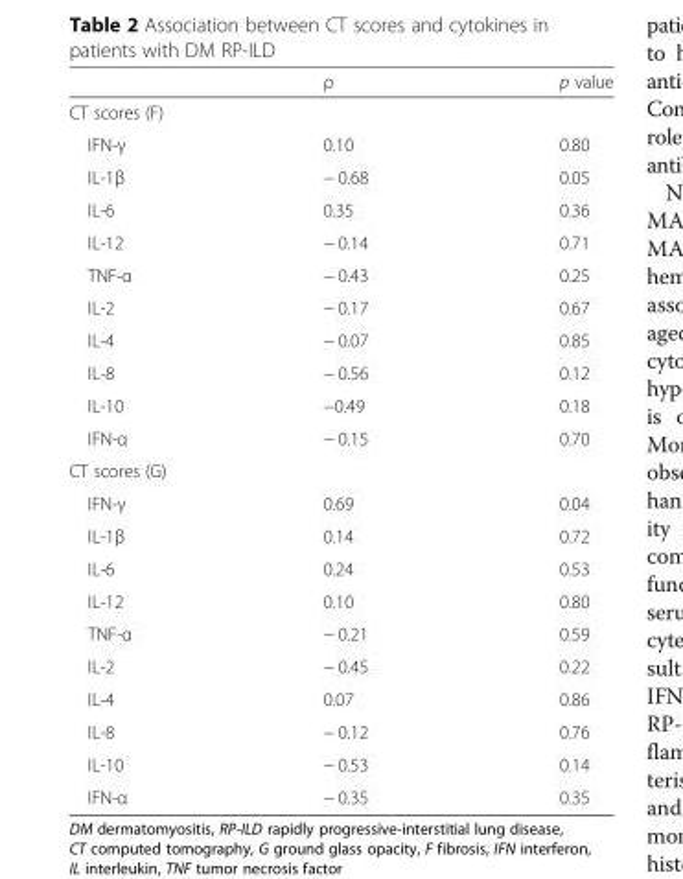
<table><thead><tr><td></td><td>ρ</td><td>p value</td></tr></thead><tbody><tr><td colspan="3">CT scores (F)</td></tr><tr><td>IFN-γ</td><td>0.10</td><td>0.80</td></tr><tr><td>IL-1β</td><td>− 0.68</td><td>0.05</td></tr><tr><td>IL-6</td><td>0.35</td><td>0.36</td></tr><tr><td>IL-12</td><td>− 0.14</td><td>0.71</td></tr><tr><td>TNF-α</td><td>− 0.43</td><td>0.25</td></tr><tr><td>IL-2</td><td>− 0.17</td><td>0.67</td></tr><tr><td>IL-4</td><td>− 0.07</td><td>0.85</td></tr><tr><td>IL-8</td><td>− 0.56</td><td>0.12</td></tr><tr><td>IL-10</td><td>−0.49</td><td>0.18</td></tr><tr><td>IFN-α</td><td>− 0.15</td><td>0.70</td></tr><tr><td colspan="3">CT scores (G)</td></tr><tr><td>IFN-γ</td><td>0.69</td><td>0.04</td></tr><tr><td>IL-1β</td><td>0.14</td><td>0.72</td></tr><tr><td>IL-6</td><td>0.24</td><td>0.53</td></tr><tr><td>IL-12</td><td>0.10</td><td>0.80</td></tr><tr><td>TNF-α</td><td>− 0.21</td><td>0.59</td></tr><tr><td>IL-2</td><td>− 0.45</td><td>0.22</td></tr><tr><td>IL-4</td><td>0.07</td><td>0.86</td></tr><tr><td>IL-8</td><td>− 0.12</td><td>0.76</td></tr><tr><td>IL-10</td><td>− 0.53</td><td>0.14</td></tr><tr><td>IFN-α</td><td>− 0.35</td><td>0.35</td></tr></tbody></table>